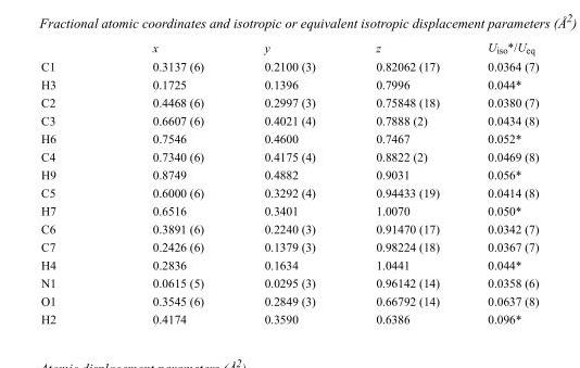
<table><thead><tr><td></td><td>x</td><td>y</td><td>z</td><td>U<sub>iso</sub>*/U<sub>eq</sub></td></tr></thead><tbody><tr><td>C1</td><td>0.3137 (6)</td><td>0.2100 (3)</td><td>0.82062 (17)</td><td>0.0364 (7)</td></tr><tr><td>H3</td><td>0.1725</td><td>0.1396</td><td>0.7996</td><td>0.044*</td></tr><tr><td>C2</td><td>0.4468 (6)</td><td>0.2997 (3)</td><td>0.75848 (18)</td><td>0.0380 (7)</td></tr><tr><td>C3</td><td>0.6607 (6)</td><td>0.4021 (4)</td><td>0.7888 (2)</td><td>0.0434 (8)</td></tr><tr><td>H6</td><td>0.7546</td><td>0.4600</td><td>0.7467</td><td>0.052*</td></tr><tr><td>C4</td><td>0.7340 (6)</td><td>0.4175 (4)</td><td>0.8822 (2)</td><td>0.0469 (8)</td></tr><tr><td>H9</td><td>0.8749</td><td>0.4882</td><td>0.9031</td><td>0.056*</td></tr><tr><td>C5</td><td>0.6000 (6)</td><td>0.3292 (4)</td><td>0.94433 (19)</td><td>0.0414 (8)</td></tr><tr><td>H7</td><td>0.6516</td><td>0.3401</td><td>1.0070</td><td>0.050*</td></tr><tr><td>C6</td><td>0.3891 (6)</td><td>0.2240 (3)</td><td>0.91470 (17)</td><td>0.0342 (7)</td></tr><tr><td>C7</td><td>0.2426 (6)</td><td>0.1379 (3)</td><td>0.98224 (18)</td><td>0.0367 (7)</td></tr><tr><td>H4</td><td>0.2836</td><td>0.1634</td><td>1.0441</td><td>0.044*</td></tr><tr><td>N1</td><td>0.0615 (5)</td><td>0.0295 (3)</td><td>0.96142 (14)</td><td>0.0358 (6)</td></tr><tr><td>O1</td><td>0.3545 (6)</td><td>0.2849 (3)</td><td>0.66792 (14)</td><td>0.0637 (8)</td></tr><tr><td>H2</td><td>0.4174</td><td>0.3590</td><td>0.6386</td><td>0.096*</td></tr></tbody></table>